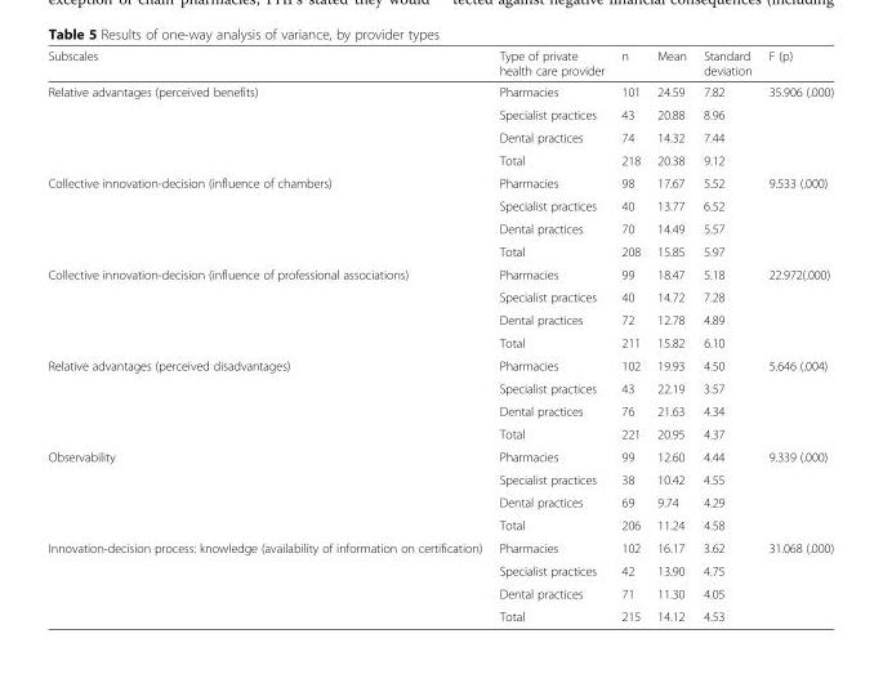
<table><thead><tr><td>Subscales</td><td>Type of private health care provider</td><td>n</td><td>Mean</td><td>Standard deviation</td><td>F (p)</td></tr></thead><tbody><tr><td rowspan="4">Relative advantages (perceived benefits)</td><td>Pharmacies</td><td>101</td><td>24.59</td><td>7.82</td><td rowspan="4">35.906 (.000)</td></tr><tr><td>Specialist practices</td><td>43</td><td>20.88</td><td>8.96</td></tr><tr><td>Dental practices</td><td>74</td><td>14.32</td><td>7.44</td></tr><tr><td>Total</td><td>218</td><td>20.38</td><td>9.12</td></tr><tr><td rowspan="4">Collective innovation-decision (influence of chambers)</td><td>Pharmacies</td><td>98</td><td>17.67</td><td>5.52</td><td rowspan="4">9.533 (.000)</td></tr><tr><td>Specialist practices</td><td>40</td><td>13.77</td><td>6.52</td></tr><tr><td>Dental practices</td><td>70</td><td>14.49</td><td>5.57</td></tr><tr><td>Total</td><td>208</td><td>15.85</td><td>5.97</td></tr><tr><td rowspan="4">Collective innovation-decision (influence of professional associations)</td><td>Pharmacies</td><td>99</td><td>18.47</td><td>5.18</td><td rowspan="4">22.972(.000)</td></tr><tr><td>Specialist practices</td><td>40</td><td>14.72</td><td>7.28</td></tr><tr><td>Dental practices</td><td>72</td><td>12.78</td><td>4.89</td></tr><tr><td>Total</td><td>211</td><td>15.82</td><td>6.10</td></tr><tr><td rowspan="4">Relative advantages (perceived disadvantages)</td><td>Pharmacies</td><td>102</td><td>19.93</td><td>4.50</td><td rowspan="4">5.646 (.004)</td></tr><tr><td>Specialist practices</td><td>43</td><td>22.19</td><td>3.57</td></tr><tr><td>Dental practices</td><td>76</td><td>21.63</td><td>4.34</td></tr><tr><td>Total</td><td>221</td><td>20.95</td><td>4.37</td></tr><tr><td rowspan="4">Observability</td><td>Pharmacies</td><td>99</td><td>12.60</td><td>4.44</td><td rowspan="4">9.339 (.000)</td></tr><tr><td>Specialist practices</td><td>38</td><td>10.42</td><td>4.55</td></tr><tr><td>Dental practices</td><td>69</td><td>9.74</td><td>4.29</td></tr><tr><td>Total</td><td>206</td><td>11.24</td><td>4.58</td></tr><tr><td rowspan="4">Innovation-decision process: knowledge (availability of information on certification)</td><td>Pharmacies</td><td>102</td><td>16.17</td><td>3.62</td><td rowspan="4">31.068 (.000)</td></tr><tr><td>Specialist practices</td><td>42</td><td>13.90</td><td>4.75</td></tr><tr><td>Dental practices</td><td>71</td><td>11.30</td><td>4.05</td></tr><tr><td>Total</td><td>215</td><td>14.12</td><td>4.53</td></tr></tbody></table>